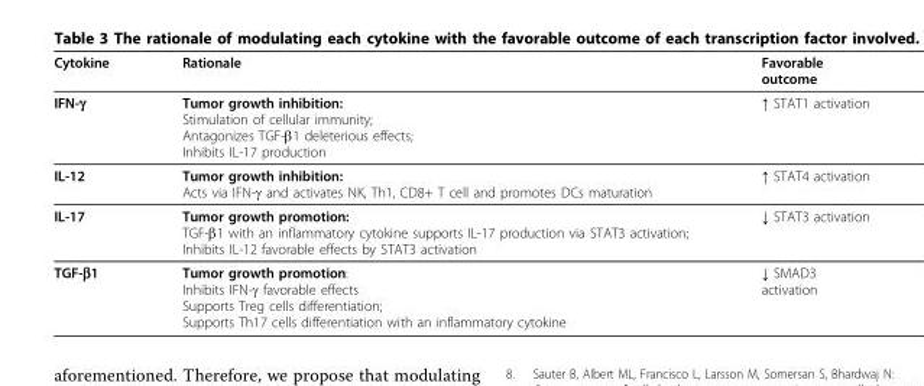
<table><thead><tr><td>Cytokine</td><td>Rationale</td><td>Favorable outcome</td></tr></thead><tbody><tr><td>IFN-γ</td><td>Tumor growth inhibition: Stimulation of cellular immunity; Antagonizes TGF-β1 deleterious effects; Inhibits IL-17 production</td><td>↑ STAT1 activation</td></tr><tr><td>IL-12</td><td>Tumor growth inhibition: Acts via IFN-γ and activates NK, Th1, CD8+ T cell and promotes DCs maturation</td><td>↑ STAT4 activation</td></tr><tr><td>IL-17</td><td>Tumor growth promotion: TGF-β1 with an inflammatory cytokine supports IL-17 production via STAT3 activation; Inhibits IL-12 favorable effects by STAT3 activation</td><td>↓ STAT3 activation</td></tr><tr><td>TGF-β1</td><td>Tumor growth promotion: Inhibits IFN-γ favorable effects Supports Treg cells differentiation; Supports Th17 cells differentiation with an inflammatory cytokine</td><td>↓ SMAD3 activation</td></tr></tbody></table>